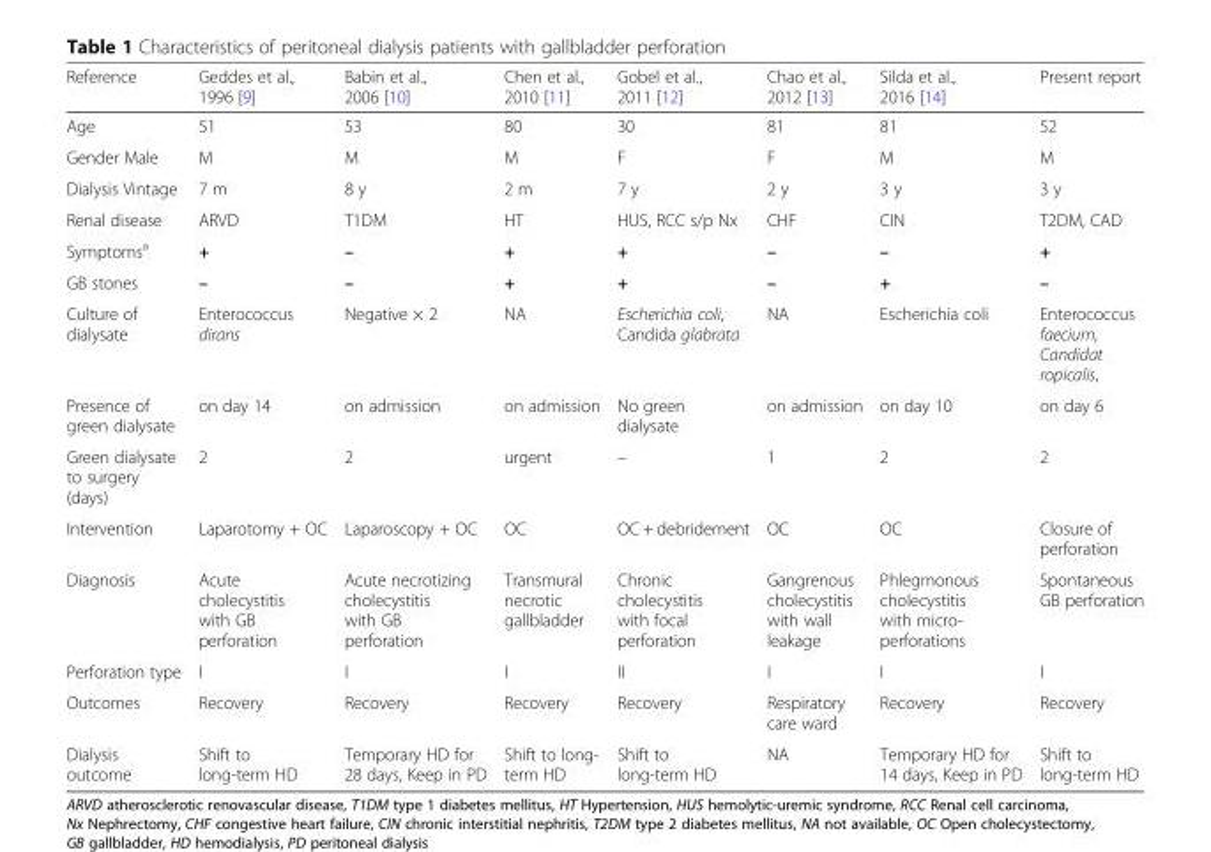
<table><thead><tr><td>Reference</td><td>Geddes et al., 1996 [9]</td><td>Babin et al., 2006 [10]</td><td>Chen et al., 2010 [11]</td><td>Gobel et al., 2011 [12]</td><td>Chao et al., 2012 [13]</td><td>Silda et al., 2016 [14]</td><td>Present report</td></tr></thead><tbody><tr><td>Age</td><td>51</td><td>53</td><td>80</td><td>30</td><td>81</td><td>81</td><td>52</td></tr><tr><td>Gender Male</td><td>M</td><td>M</td><td>M</td><td>F</td><td>F</td><td>M</td><td>M</td></tr><tr><td>Dialysis Vintage</td><td>7 m</td><td>8 y</td><td>2 m</td><td>7 y</td><td>2 y</td><td>3 y</td><td>3 y</td></tr><tr><td>Renal disease</td><td>ARVD</td><td>T1DM</td><td>HT</td><td>HUS, RCC s/p Nx</td><td>CHF</td><td>CIN</td><td>T2DM, CAD</td></tr><tr><td>Symptoms<sup>a</sup></td><td>+</td><td>–</td><td>+</td><td>+</td><td>–</td><td>–</td><td>+</td></tr><tr><td>GB stones</td><td>–</td><td>–</td><td>+</td><td>+</td><td>–</td><td>+</td><td>–</td></tr><tr><td>Culture of dialysate</td><td>Enterococcus dirans</td><td>Negative × 2</td><td>NA</td><td>Escherichia coli, Candida glabrata</td><td>NA</td><td>Escherichia coli</td><td>Enterococcus faecium, Candidat ropicalis,</td></tr><tr><td>Presence of green dialysate</td><td>on day 14</td><td>on admission</td><td>on admission</td><td>No green dialysate</td><td>on admission</td><td>on day 10</td><td>on day 6</td></tr><tr><td>Green dialysate to surgery (days)</td><td>2</td><td>2</td><td>urgent</td><td>–</td><td>1</td><td>2</td><td>2</td></tr><tr><td>Intervention</td><td>Laparotomy + OC</td><td>Laparoscopy + OC</td><td>OC</td><td>OC + debridement</td><td>OC</td><td>OC</td><td>Closure of perforation</td></tr><tr><td>Diagnosis</td><td>Acute cholecystitis with GB perforation</td><td>Acute necrotizing cholecystitis with GB perforation</td><td>Transmural necrotic gallbladder</td><td>Chronic cholecystitis with focal perforation</td><td>Gangrenous cholecystitis with wall leakage</td><td>Phlegmonous cholecystitis with micro- perforations</td><td>Spontaneous GB perforation</td></tr><tr><td>Perforation type</td><td>I</td><td>I</td><td>I</td><td>II</td><td>I</td><td>I</td><td>I</td></tr><tr><td>Outcomes</td><td>Recovery</td><td>Recovery</td><td>Recovery</td><td>Recovery</td><td>Respiratory care ward</td><td>Recovery</td><td>Recovery</td></tr><tr><td>Dialysis outcome</td><td>Shift to long-term HD</td><td>Temporary HD for 28 days, Keep in PD</td><td>Shift to long- term HD</td><td>Shift to long-term HD</td><td>NA</td><td>Temporary HD for 14 days, Keep in PD</td><td>Shift to long-term HD</td></tr></tbody></table>